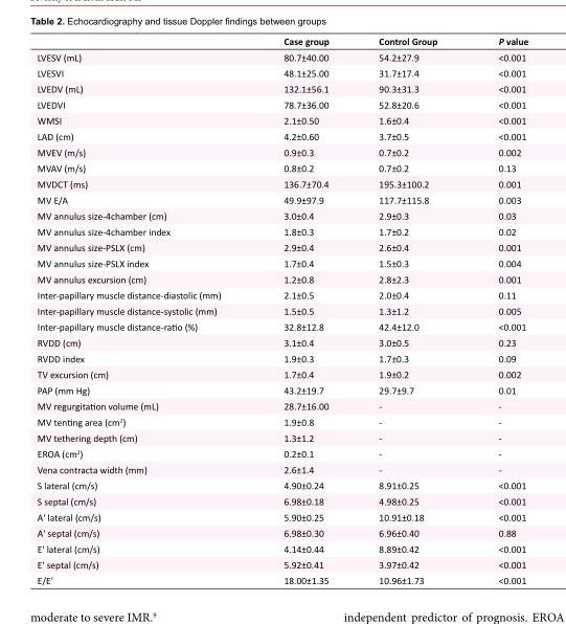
<table><thead><tr><td></td><td>Case group</td><td>Control Group</td><td>P value</td></tr></thead><tbody><tr><td>LVESV (mL)</td><td>80.7±40.00</td><td>54.2±27.9</td><td>&lt;0.001</td></tr><tr><td>LVESVI</td><td>48.1±25.00</td><td>31.7±17.4</td><td>&lt;0.001</td></tr><tr><td>LVEDV (mL)</td><td>132.1±56.1</td><td>90.3±31.3</td><td>&lt;0.001</td></tr><tr><td>LVEDVI</td><td>78.7±36.00</td><td>52.8±20.6</td><td>&lt;0.001</td></tr><tr><td>WMSI</td><td>2.1±0.50</td><td>1.6±0.4</td><td>&lt;0.001</td></tr><tr><td>LAD (cm)</td><td>4.2±0.60</td><td>3.7±0.5</td><td>&lt;0.001</td></tr><tr><td>MVEV (m/s)</td><td>0.9±0.3</td><td>0.7±0.2</td><td>0.002</td></tr><tr><td>MVAV (m/s)</td><td>0.8±0.2</td><td>0.7±0.2</td><td>0.13</td></tr><tr><td>MVDCT (ms)</td><td>136.7±70.4</td><td>195.3±100.2</td><td>0.001</td></tr><tr><td>MV E/A</td><td>49.9±97.9</td><td>117.7±115.8</td><td>0.003</td></tr><tr><td>MV annulus size-4chamber (cm)</td><td>3.0±0.4</td><td>2.9±0.3</td><td>0.03</td></tr><tr><td>MV annulus size-4chamber index</td><td>1.8±0.3</td><td>1.7±0.2</td><td>0.02</td></tr><tr><td>MV annulus size-PSLX (cm)</td><td>2.9±0.4</td><td>2.6±0.4</td><td>0.001</td></tr><tr><td>MV annulus size-PSLX index</td><td>1.7±0.4</td><td>1.5±0.3</td><td>0.004</td></tr><tr><td>MV annulus excursion (cm)</td><td>1.2±0.8</td><td>2.8±2.3</td><td>0.001</td></tr><tr><td>Inter-papillary muscle distance-diastolic (mm)</td><td>2.1±0.5</td><td>2.0±0.4</td><td>0.11</td></tr><tr><td>Inter-papillary muscle distance-systolic (mm)</td><td>1.5±0.5</td><td>1.3±1.2</td><td>0.005</td></tr><tr><td>Inter-papillary muscle distance-ratio (%)</td><td>32.8±12.8</td><td>42.4±12.0</td><td>&lt;0.001</td></tr><tr><td>RVDD (cm)</td><td>3.1±0.4</td><td>3.0±0.5</td><td>0.23</td></tr><tr><td>RVDD index</td><td>1.9±0.3</td><td>1.7±0.3</td><td>0.09</td></tr><tr><td>TV excursion (cm)</td><td>1.7±0.4</td><td>1.9±0.2</td><td>0.002</td></tr><tr><td>PAP (mm Hg)</td><td>43.2±19.7</td><td>29.7±9.7</td><td>0.01</td></tr><tr><td>MV regurgitation volume (mL)</td><td>28.7±16.00</td><td>-</td><td>-</td></tr><tr><td>MV tenting area (cm<sup>2</sup>)</td><td>1.9±0.8</td><td>-</td><td>-</td></tr><tr><td>MV tethering depth (cm)</td><td>1.3±1.2</td><td>-</td><td>-</td></tr><tr><td>EROA (cm<sup>2</sup>)</td><td>0.2±0.1</td><td>-</td><td>-</td></tr><tr><td>Vena contracta width (mm)</td><td>2.6±1.4</td><td>-</td><td>-</td></tr><tr><td>S lateral (cm/s)</td><td>4.90±0.24</td><td>8.91±0.25</td><td>&lt;0.001</td></tr><tr><td>S septal (cm/s)</td><td>6.98±0.18</td><td>4.98±0.25</td><td>&lt;0.001</td></tr><tr><td>A&#x27; lateral (cm/s)</td><td>5.90±0.25</td><td>10.91±0.18</td><td>&lt;0.001</td></tr><tr><td>A&#x27; septal (cm/s)</td><td>6.98±0.30</td><td>6.96±0.40</td><td>0.88</td></tr><tr><td>E&#x27; lateral (cm/s)</td><td>4.14±0.44</td><td>8.89±0.42</td><td>&lt;0.001</td></tr><tr><td>E&#x27; septal (cm/s)</td><td>5.92±0.41</td><td>3.97±0.42</td><td>&lt;0.001</td></tr><tr><td>E/E’</td><td>18.00±1.35</td><td>10.96±1.73</td><td>&lt;0.001</td></tr></tbody></table>